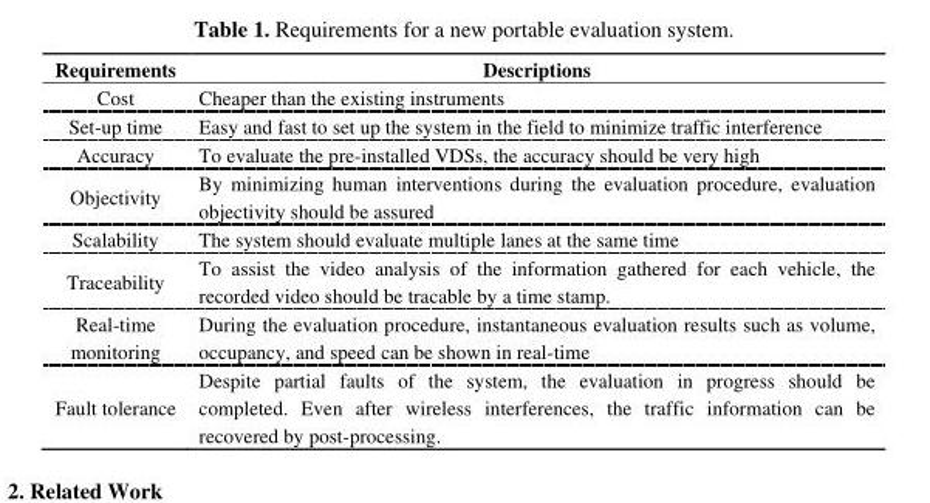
<table><thead><tr><td>Requirements</td><td>Descriptions</td></tr></thead><tbody><tr><td>Cost</td><td>Cheaper than the existing instruments</td></tr><tr><td>Set-up time</td><td>Easy and fast to set up the system in the field to minimize traffic interference</td></tr><tr><td>Accuracy</td><td>To evaluate the pre-installed VDSs, the accuracy should be very high</td></tr><tr><td>Objectivity</td><td>By minimizing human interventions during the evaluation procedure, evaluation objectivity should be assured</td></tr><tr><td>Scalability</td><td>The system should evaluate multiple lanes at the same time</td></tr><tr><td>Traceability</td><td>To assist the video analysis of the information gathered for each vehicle, the recorded video should be tracable by a time stamp.</td></tr><tr><td>Real-time monitoring</td><td>During the evaluation procedure, instantaneous evaluation results such as volume, occupancy, and speed can be shown in real-time</td></tr><tr><td>Fault tolerance</td><td>Despite partial faults of the system, the evaluation in progress should be completed. Even after wireless interferences, the traffic information can be recovered by post-processing.</td></tr></tbody></table>